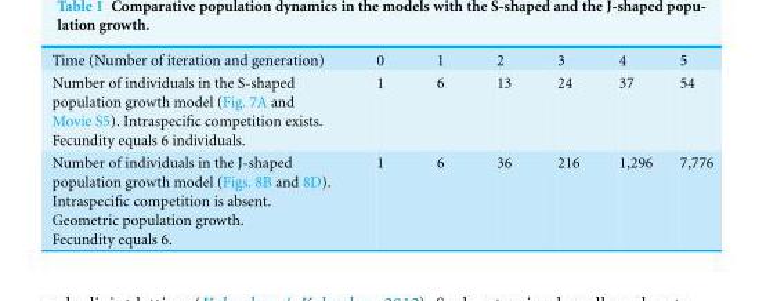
<table><tbody><tr><td>Time (Number of iteration and generation)</td><td>0</td><td>1</td><td>2</td><td>3</td><td>4</td><td>5</td></tr><tr><td>Number of individuals in the S-shaped population growth model (Fig. 7A and Movie S5). Intraspecific competition exists. Fecundity equals 6 individuals.</td><td>1</td><td>6</td><td>13</td><td>24</td><td>37</td><td>54</td></tr><tr><td>Number of individuals in the J-shaped population growth model (Figs. 8B and 8D). Intraspecific competition is absent. Geometric population growth. Fecundity equals 6.</td><td>1</td><td>6</td><td>36</td><td>216</td><td>1,296</td><td>7,776</td></tr></tbody></table>